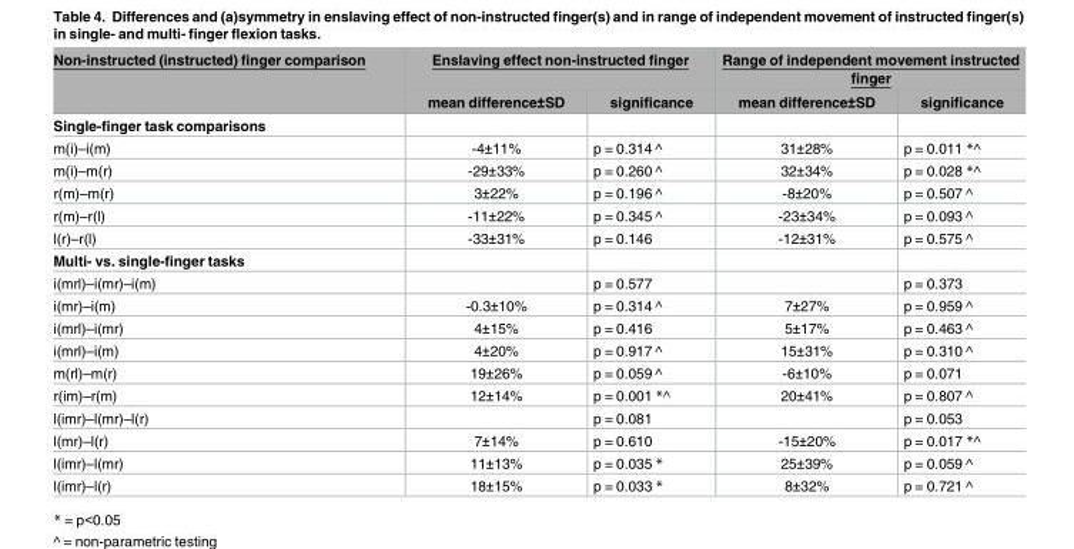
<table><thead><tr><td rowspan="2">Non-instructed (instructed) finger comparison</td><td colspan="2">Enslaving effect non-instructed finger</td><td colspan="2">Range of independent movement instructed finger</td></tr><tr><td>mean difference±SD</td><td>significance</td><td>mean difference±SD</td><td>significance</td></tr></thead><tbody><tr><td colspan="5">Single-finger task comparisons</td></tr><tr><td>m(i)–i(m)</td><td>-4±11%</td><td>p = 0.314 ^</td><td>31±28%</td><td>p = 0.011 *^</td></tr><tr><td>m(i)–m(r)</td><td>-29±33%</td><td>p = 0.260 ^</td><td>32±34%</td><td>p = 0.028 *^</td></tr><tr><td>r(m)–m(r)</td><td>3±22%</td><td>p = 0.196 ^</td><td>-8±20%</td><td>p = 0.507 ^</td></tr><tr><td>r(m)–r(l)</td><td>-11±22%</td><td>p = 0.345 ^</td><td>-23±34%</td><td>p = 0.093 ^</td></tr><tr><td>l(r)–r(l)</td><td>-33±31%</td><td>p = 0.146</td><td>-12±31%</td><td>p = 0.575 ^</td></tr><tr><td colspan="5">Multi- vs. single-finger tasks</td></tr><tr><td>i(mrl)–i(mr)–i(m)</td><td></td><td>p = 0.577</td><td></td><td>p = 0.373</td></tr><tr><td>i(mr)–i(m)</td><td>-0.3±10%</td><td>p = 0.314 ^</td><td>7±27%</td><td>p = 0.959 ^</td></tr><tr><td>i(mrl)–i(mr)</td><td>4±15%</td><td>p = 0.416</td><td>5±17%</td><td>p = 0.463 ^</td></tr><tr><td>i(mrl)–i(m)</td><td>4±20%</td><td>p = 0.917 ^</td><td>15±31%</td><td>p = 0.310 ^</td></tr><tr><td>m(rl)–m(r)</td><td>19±26%</td><td>p = 0.059 ^</td><td>-6±10%</td><td>p = 0.071</td></tr><tr><td>r(im)–r(m)</td><td>12±14%</td><td>p = 0.001 *^</td><td>20±41%</td><td>p = 0.807 ^</td></tr><tr><td>l(imr)–l(mr)–l(r)</td><td></td><td>p = 0.081</td><td></td><td>p = 0.053</td></tr><tr><td>l(mr)–l(r)</td><td>7±14%</td><td>p = 0.610</td><td>-15±20%</td><td>p = 0.017 *^</td></tr><tr><td>l(imr)–l(mr)</td><td>11±13%</td><td>p = 0.035 *</td><td>25±39%</td><td>p = 0.059 ^</td></tr><tr><td>l(imr)–l(r)</td><td>18±15%</td><td>p = 0.033 *</td><td>8±32%</td><td>p = 0.721 ^</td></tr></tbody></table>